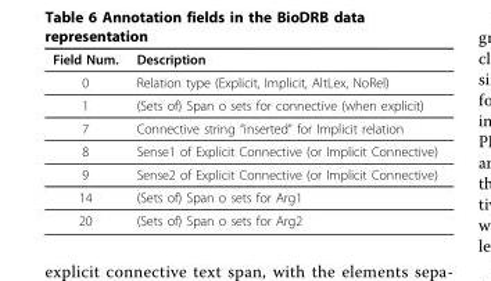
<table><thead><tr><td>Field Num.</td><td>Description</td></tr></thead><tbody><tr><td>0</td><td>Relation type (Explicit, Implicit, AltLex, NoRel)</td></tr><tr><td>1</td><td>(Sets of) Span o sets for connective (when explicit)</td></tr><tr><td>7</td><td>Connective string “inserted” for Implicit relation</td></tr><tr><td>8</td><td>Sense1 of Explicit Connective (or Implicit Connective)</td></tr><tr><td>9</td><td>Sense2 of Explicit Connective (or Implicit Connective)</td></tr><tr><td>14</td><td>(Sets of) Span o sets for Arg1</td></tr><tr><td>20</td><td>(Sets of) Span o sets for Arg2</td></tr></tbody></table>